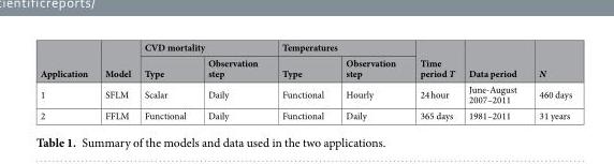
<table><thead><tr><td rowspan="2">Application</td><td rowspan="2">Model</td><td colspan="2">CVD mortality</td><td colspan="2">Temperatures</td><td rowspan="2">Time period T</td><td rowspan="2">Data period</td><td rowspan="2">N</td></tr><tr><td>Type</td><td>Observation step</td><td>Type</td><td>Observation step</td></tr></thead><tbody><tr><td>1</td><td>SFLM</td><td>Scalar</td><td>Daily</td><td>Functional</td><td>Hourly</td><td>24 hour</td><td>June-August 2007–2011</td><td>460 days</td></tr><tr><td>2</td><td>FFLM</td><td>Functional</td><td>Daily</td><td>Functional</td><td>Daily</td><td>365 days</td><td>1981–2011</td><td>31 years</td></tr></tbody></table>